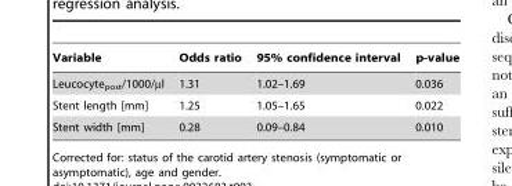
<table><thead><tr><td>Variable</td><td>Odds ratio</td><td>95% confidence interval</td><td>p-value</td></tr></thead><tbody><tr><td>Leucocyte<sub>post</sub>/1000/µl</td><td>1.31</td><td>1.02–1.69</td><td>0.036</td></tr><tr><td>Stent length [mm]</td><td>1.25</td><td>1.05–1.65</td><td>0.022</td></tr><tr><td>Stent width [mm]</td><td>0.28</td><td>0.09–0.84</td><td>0.010</td></tr></tbody></table>